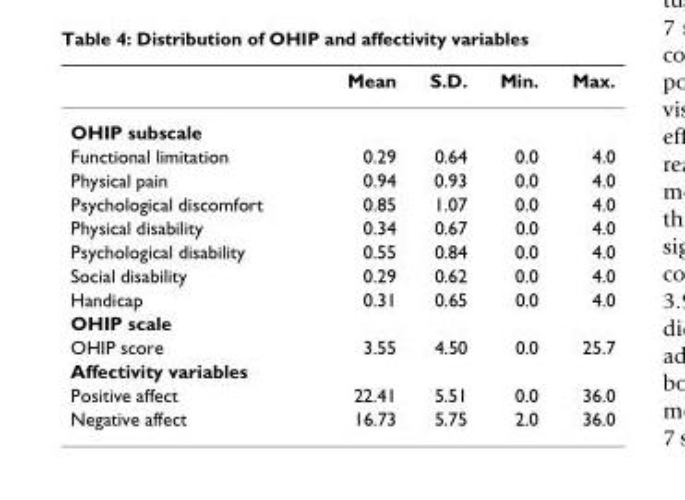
<table><thead><tr><td></td><td>Mean</td><td>S.D.</td><td>Min.</td><td>Max.</td></tr></thead><tbody><tr><td colspan="5">OHIP subscale</td></tr><tr><td>Functional limitation</td><td>0.29</td><td>0.64</td><td>0.0</td><td>4.0</td></tr><tr><td>Physical pain</td><td>0.94</td><td>0.93</td><td>0.0</td><td>4.0</td></tr><tr><td>Psychological discomfort</td><td>0.85</td><td>1.07</td><td>0.0</td><td>4.0</td></tr><tr><td>Physical disability</td><td>0.34</td><td>0.67</td><td>0.0</td><td>4.0</td></tr><tr><td>Psychological disability</td><td>0.55</td><td>0.84</td><td>0.0</td><td>4.0</td></tr><tr><td>Social disability</td><td>0.29</td><td>0.62</td><td>0.0</td><td>4.0</td></tr><tr><td>Handicap</td><td>0.31</td><td>0.65</td><td>0.0</td><td>4.0</td></tr><tr><td colspan="5">OHIP scale</td></tr><tr><td>OHIP score</td><td>3.55</td><td>4.50</td><td>0.0</td><td>25.7</td></tr><tr><td colspan="5">Affectivity variables</td></tr><tr><td>Positive affect</td><td>22.41</td><td>5.51</td><td>0.0</td><td>36.0</td></tr><tr><td>Negative affect</td><td>16.73</td><td>5.75</td><td>2.0</td><td>36.0</td></tr></tbody></table>